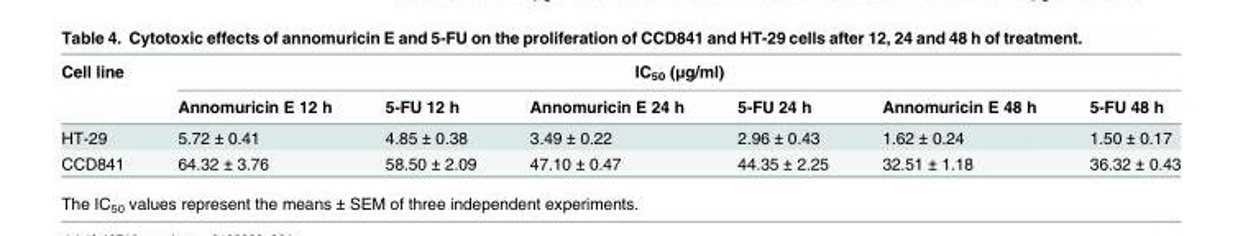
<table><thead><tr><td rowspan="2">Cell line</td><td colspan="6">IC<sub>50</sub> (μg/ml)</td></tr><tr><td>Annomuricin E 12 h</td><td>5-FU 12 h</td><td>Annomuricin E 24 h</td><td>5-FU 24 h</td><td>Annomuricin E 48 h</td><td>5-FU 48 h</td></tr></thead><tbody><tr><td>HT-29</td><td>5.72 ± 0.41</td><td>4.85 ± 0.38</td><td>3.49 ± 0.22</td><td>2.96 ± 0.43</td><td>1.62 ± 0.24</td><td>1.50 ± 0.17</td></tr><tr><td>CCD841</td><td>64.32 ± 3.76</td><td>58.50 ± 2.09</td><td>47.10 ± 0.47</td><td>44.35 ± 2.25</td><td>32.51 ± 1.18</td><td>36.32 ± 0.43</td></tr></tbody></table>